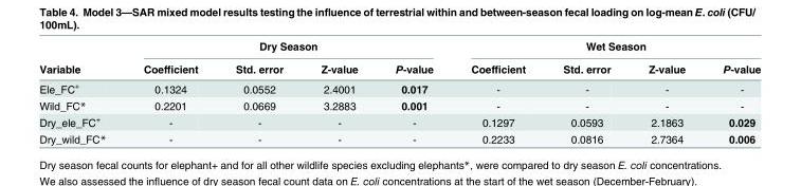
<table><thead><tr><td rowspan="2">Variable</td><td colspan="4">Dry Season</td><td colspan="4">Wet Season</td></tr><tr><td>Coefficient</td><td>Std. error</td><td>Z-value</td><td>P-value</td><td>Coefficient</td><td>Std. error</td><td>Z-value</td><td>P-value</td></tr></thead><tbody><tr><td>Ele_FC<sup>+</sup></td><td>0.1324</td><td>0.0552</td><td>2.4001</td><td>0.017</td><td>-</td><td>-</td><td>-</td><td>-</td></tr><tr><td>Wild_FC*</td><td>0.2201</td><td>0.0669</td><td>3.2883</td><td>0.001</td><td>-</td><td>-</td><td>-</td><td>-</td></tr><tr><td>Dry_ele_FC<sup>+</sup></td><td>-</td><td>-</td><td>-</td><td>-</td><td>0.1297</td><td>0.0593</td><td>2.1863</td><td>0.029</td></tr><tr><td>Dry_wild_FC*</td><td>-</td><td>-</td><td>-</td><td>-</td><td>0.2233</td><td>0.0816</td><td>2.7364</td><td>0.006</td></tr></tbody></table>